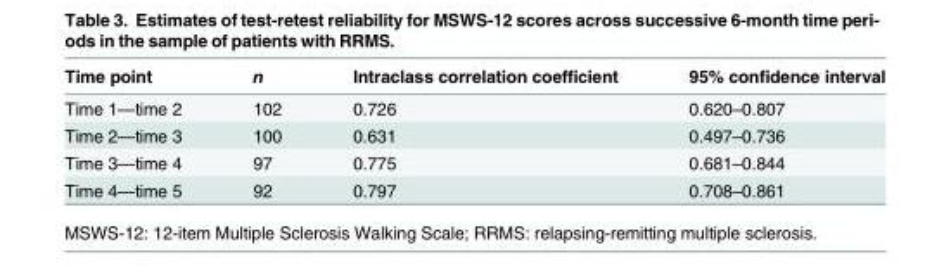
<table><thead><tr><td>Time point</td><td>n</td><td>Intraclass correlation coefficient</td><td>95% confidence interval</td></tr></thead><tbody><tr><td>Time 1—time 2</td><td>102</td><td>0.726</td><td>0.620–0.807</td></tr><tr><td>Time 2—time 3</td><td>100</td><td>0.631</td><td>0.497–0.736</td></tr><tr><td>Time 3—time 4</td><td>97</td><td>0.775</td><td>0.681–0.844</td></tr><tr><td>Time 4—time 5</td><td>92</td><td>0.797</td><td>0.708–0.861</td></tr></tbody></table>